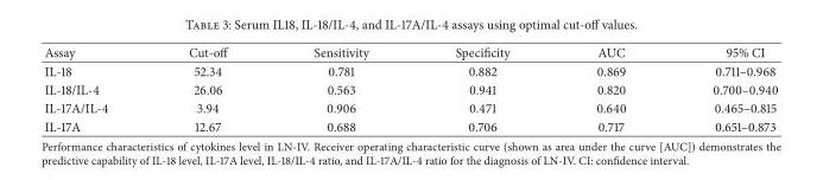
<table><thead><tr><td>Assay</td><td>Cut-off</td><td>Sensitivity</td><td>Specificity</td><td>AUC</td><td>95% CI</td></tr></thead><tbody><tr><td>IL-18</td><td>52.34</td><td>0.781</td><td>0.882</td><td>0.869</td><td>0.711–0.968</td></tr><tr><td>IL-18/IL-4</td><td>26.06</td><td>0.563</td><td>0.941</td><td>0.820</td><td>0.700–0.940</td></tr><tr><td>IL-17A/IL-4</td><td>3.94</td><td>0.906</td><td>0.471</td><td>0.640</td><td>0.465–0.815</td></tr><tr><td>IL-17A</td><td>12.67</td><td>0.688</td><td>0.706</td><td>0.717</td><td>0.651–0.873</td></tr></tbody></table>